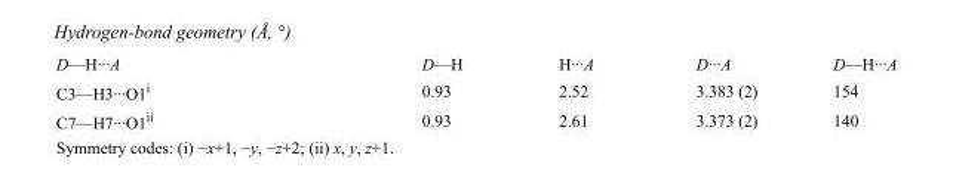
<table><tbody><tr><td>D—H···A</td><td>D—H</td><td>H···A</td><td>D···A</td><td>D—H···A</td></tr><tr><td>C3—H3···O1<sup>i</sup></td><td>0.93</td><td>2.52</td><td>3.383 (2)</td><td>154</td></tr><tr><td>C7—H7···O1<sup>ii</sup></td><td>0.93</td><td>2.61</td><td>3.373 (2)</td><td>140</td></tr></tbody></table>